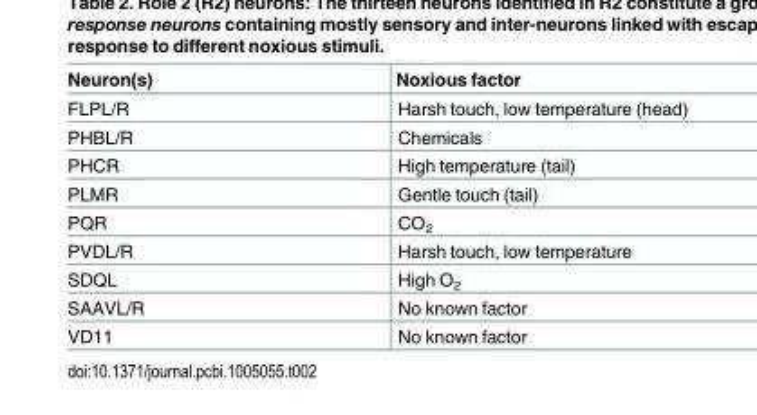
<table><thead><tr><td>Neuron(s)</td><td>Noxious factor</td></tr></thead><tbody><tr><td>FLPL/R</td><td>Harsh touch, low temperature (head)</td></tr><tr><td>PHBL/R</td><td>Chemicals</td></tr><tr><td>PHCR</td><td>High temperature (tail)</td></tr><tr><td>PLMR</td><td>Gentle touch (tail)</td></tr><tr><td>PQR</td><td>CO<sub>2</sub></td></tr><tr><td>PVDL/R</td><td>Harsh touch, low temperature</td></tr><tr><td>SDQL</td><td>High O<sub>2</sub></td></tr><tr><td>SAAVL/R</td><td>No known factor</td></tr><tr><td>VD11</td><td>No known factor</td></tr></tbody></table>